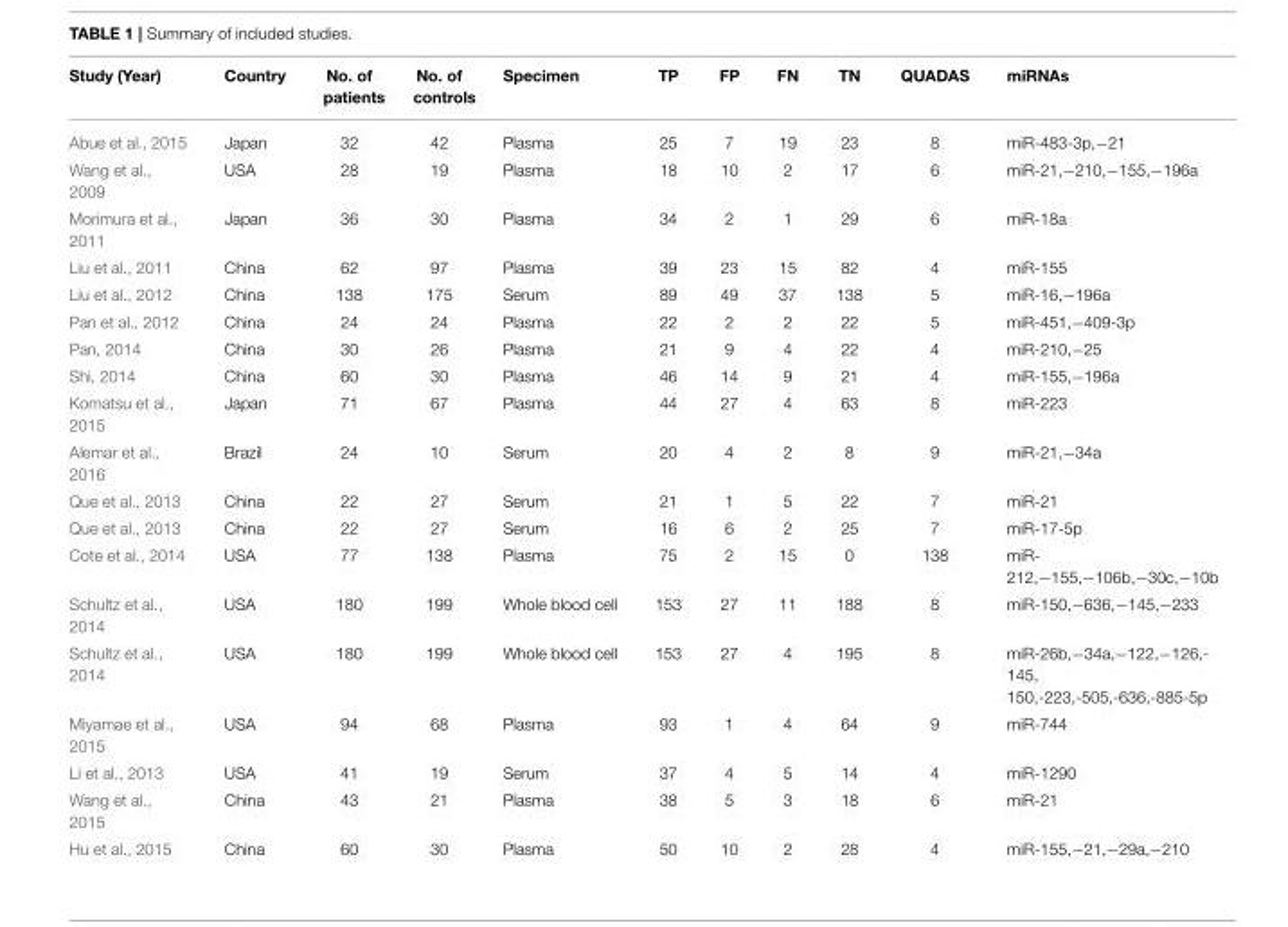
<table><thead><tr><td>Study (Year)</td><td>Country</td><td>No. of patients</td><td>No. of controls</td><td>Specimen</td><td>TP</td><td>FP</td><td>FN</td><td>TN</td><td>QUADAS</td><td>miRNAs</td></tr></thead><tbody><tr><td>Abue et al., 2015</td><td>Japan</td><td>32</td><td>42</td><td>Plasma</td><td>25</td><td>7</td><td>19</td><td>23</td><td>8</td><td>miR-483-3p,−21</td></tr><tr><td>Wang et al., 2009</td><td>USA</td><td>28</td><td>19</td><td>Plasma</td><td>18</td><td>10</td><td>2</td><td>17</td><td>6</td><td>miR-21,−210,−155,−196a</td></tr><tr><td>Morimura et al., 2011</td><td>Japan</td><td>36</td><td>30</td><td>Plasma</td><td>34</td><td>2</td><td>1</td><td>29</td><td>6</td><td>miR-18a</td></tr><tr><td>Liu et al., 2011</td><td>China</td><td>62</td><td>97</td><td>Plasma</td><td>39</td><td>23</td><td>15</td><td>82</td><td>4</td><td>miR-155</td></tr><tr><td>Liu et al., 2012</td><td>China</td><td>138</td><td>175</td><td>Serum</td><td>89</td><td>49</td><td>37</td><td>138</td><td>5</td><td>miR-16,−196a</td></tr><tr><td>Pan et al., 2012</td><td>China</td><td>24</td><td>24</td><td>Plasma</td><td>22</td><td>2</td><td>2</td><td>22</td><td>5</td><td>miR-451,−409-3p</td></tr><tr><td>Pan, 2014</td><td>China</td><td>30</td><td>26</td><td>Plasma</td><td>21</td><td>9</td><td>4</td><td>22</td><td>4</td><td>miR-210,−25</td></tr><tr><td>Shi, 2014</td><td>China</td><td>60</td><td>30</td><td>Plasma</td><td>46</td><td>14</td><td>9</td><td>21</td><td>4</td><td>miR-155,−196a</td></tr><tr><td>Komatsu et al., 2015</td><td>Japan</td><td>71</td><td>67</td><td>Plasma</td><td>44</td><td>27</td><td>4</td><td>63</td><td>8</td><td>miR-223</td></tr><tr><td>Alemar et al., 2016</td><td>Brazil</td><td>24</td><td>10</td><td>Serum</td><td>20</td><td>4</td><td>2</td><td>8</td><td>9</td><td>miR-21,−34a</td></tr><tr><td>Que et al., 2013</td><td>China</td><td>22</td><td>27</td><td>Serum</td><td>21</td><td>1</td><td>5</td><td>22</td><td>7</td><td>miR-21</td></tr><tr><td>Que et al., 2013</td><td>China</td><td>22</td><td>27</td><td>Serum</td><td>16</td><td>6</td><td>2</td><td>25</td><td>7</td><td>miR-17-5p</td></tr><tr><td>Cote et al., 2014</td><td>USA</td><td>77</td><td>138</td><td>Plasma</td><td>75</td><td>2</td><td>15</td><td>0</td><td>138</td><td>miR- 212,−155,−106b,−30c,−10b</td></tr><tr><td>Schultz et al., 2014</td><td>USA</td><td>180</td><td>199</td><td>Whole blood cell</td><td>153</td><td>27</td><td>11</td><td>188</td><td>8</td><td>miR-150,−636,−145,−233</td></tr><tr><td>Schultz et al., 2014</td><td>USA</td><td>180</td><td>199</td><td>Whole blood cell</td><td>153</td><td>27</td><td>4</td><td>195</td><td>8</td><td>miR-26b,−34a,−122,−126,- 145, 150,-223,-505,-636,-885-5p</td></tr><tr><td>Miyamae et al., 2015</td><td>USA</td><td>94</td><td>68</td><td>Plasma</td><td>93</td><td>1</td><td>4</td><td>64</td><td>9</td><td>miR-744</td></tr><tr><td>Li et al., 2013</td><td>USA</td><td>41</td><td>19</td><td>Serum</td><td>37</td><td>4</td><td>5</td><td>14</td><td>4</td><td>miR-1290</td></tr><tr><td>Wang et al., 2015</td><td>China</td><td>43</td><td>21</td><td>Plasma</td><td>38</td><td>5</td><td>3</td><td>18</td><td>6</td><td>miR-21</td></tr><tr><td>Hu et al., 2015</td><td>China</td><td>60</td><td>30</td><td>Plasma</td><td>50</td><td>10</td><td>2</td><td>28</td><td>4</td><td>miR-155,−21,−29a,−210</td></tr></tbody></table>